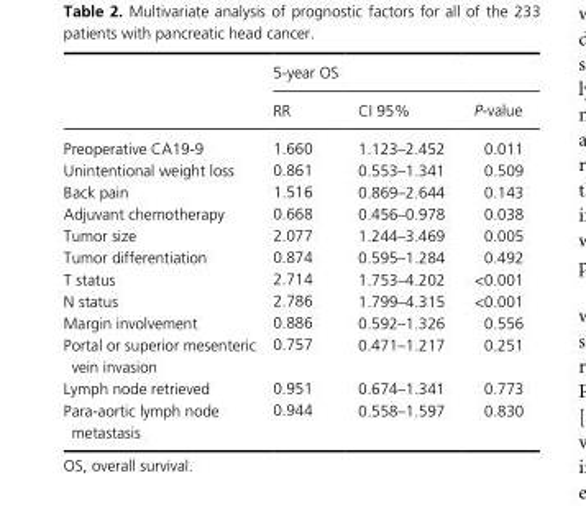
<table><thead><tr><td rowspan="2"></td><td colspan="3">5- year OS</td></tr><tr><td>RR</td><td>CI 95%</td><td>P- value</td></tr></thead><tbody><tr><td>Preoperative CA19- 9</td><td>1.660</td><td>1.123–2.452</td><td>0.011</td></tr><tr><td>Unintentional weight loss</td><td>0.861</td><td>0.553–1.341</td><td>0.509</td></tr><tr><td>Back pain</td><td>1.516</td><td>0.869–2.644</td><td>0.143</td></tr><tr><td>Adjuvant chemotherapy</td><td>0.668</td><td>0.456–0.978</td><td>0.038</td></tr><tr><td>Tumor size</td><td>2.077</td><td>1.244–3.469</td><td>0.005</td></tr><tr><td>Tumor differentiation</td><td>0.874</td><td>0.595–1.284</td><td>0.492</td></tr><tr><td>T status</td><td>2.714</td><td>1.753–4.202</td><td>&lt;0.001</td></tr><tr><td>N status</td><td>2.786</td><td>1.799–4.315</td><td>&lt;0.001</td></tr><tr><td>Margin involvement</td><td>0.886</td><td>0.592–1.326</td><td>0.556</td></tr><tr><td>Portal or superior mesenteric vein invasion</td><td>0.757</td><td>0.471–1.217</td><td>0.251</td></tr><tr><td>Lymph node retrieved</td><td>0.951</td><td>0.674–1.341</td><td>0.773</td></tr><tr><td>Para- aortic lymph node metastasis</td><td>0.944</td><td>0.558–1.597</td><td>0.830</td></tr></tbody></table>